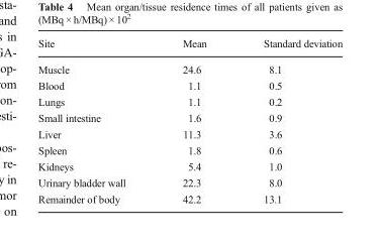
<table><thead><tr><td>Site</td><td>Mean</td><td>Standard deviation</td></tr></thead><tbody><tr><td>Muscle</td><td>24.6</td><td>8.1</td></tr><tr><td>Blood</td><td>1.1</td><td>0.5</td></tr><tr><td>Lungs</td><td>1.1</td><td>0.2</td></tr><tr><td>Small intestine</td><td>1.6</td><td>0.9</td></tr><tr><td>Liver</td><td>11.3</td><td>3.6</td></tr><tr><td>Spleen</td><td>1.8</td><td>0.6</td></tr><tr><td>Kidneys</td><td>5.4</td><td>1.0</td></tr><tr><td>Urinary bladder wall</td><td>22.3</td><td>8.0</td></tr><tr><td>Remainder of body</td><td>42.2</td><td>13.1</td></tr></tbody></table>